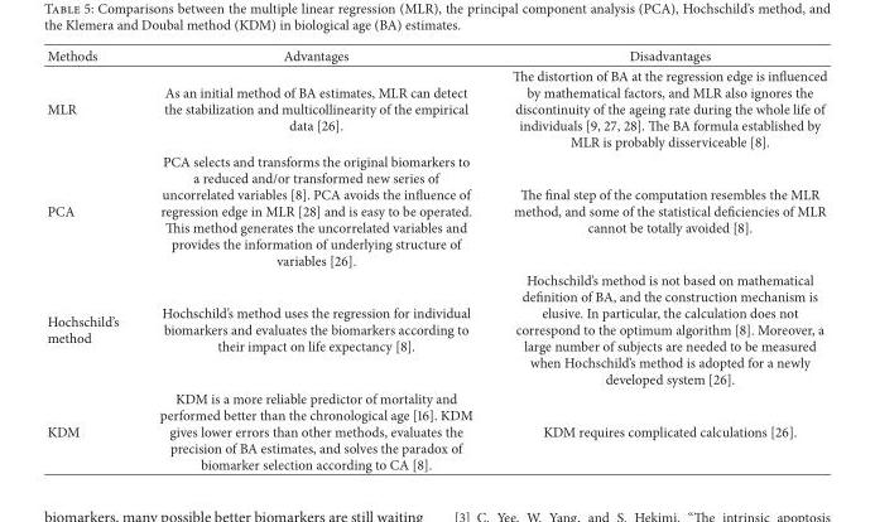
<table><thead><tr><td>Methods</td><td>Advantages</td><td>Disadvantages</td></tr></thead><tbody><tr><td>MLR</td><td>As an initial method of BA estimates, MLR can detect the stabilization and multicollinearity of the empirical data [26].</td><td>The distortion of BA at the regression edge is influenced by mathematical factors, and MLR also ignores the discontinuity of the ageing rate during the whole life of individuals [9, 27, 28]. The BA formula established by MLR is probably disserviceable [8].</td></tr><tr><td>PCA</td><td>PCA selects and transforms the original biomarkers to a reduced and/or transformed new series of uncorrelated variables [8]. PCA avoids the influence of regression edge in MLR [28] and is easy to be operated. This method generates the uncorrelated variables and provides the information of underlying structure of variables [26].</td><td>The final step of the computation resembles the MLR method, and some of the statistical deficiencies of MLR cannot be totally avoided [8].</td></tr><tr><td>Hochschild’s method</td><td>Hochschild’s method uses the regression for individual biomarkers and evaluates the biomarkers according to their impact on life expectancy [8].</td><td>Hochschild’s method is not based on mathematical definition of BA, and the construction mechanism is elusive. In particular, the calculation does not correspond to the optimum algorithm [8]. Moreover, a large number of subjects are needed to be measured when Hochschild’s method is adopted for a newly developed system [26].</td></tr><tr><td>KDM</td><td>KDM is a more reliable predictor of mortality and performed better than the chronological age [16]. KDM gives lower errors than other methods, evaluates the precision of BA estimates, and solves the paradox of biomarker selection according to CA [8].</td><td>KDM requires complicated calculations [26].</td></tr></tbody></table>